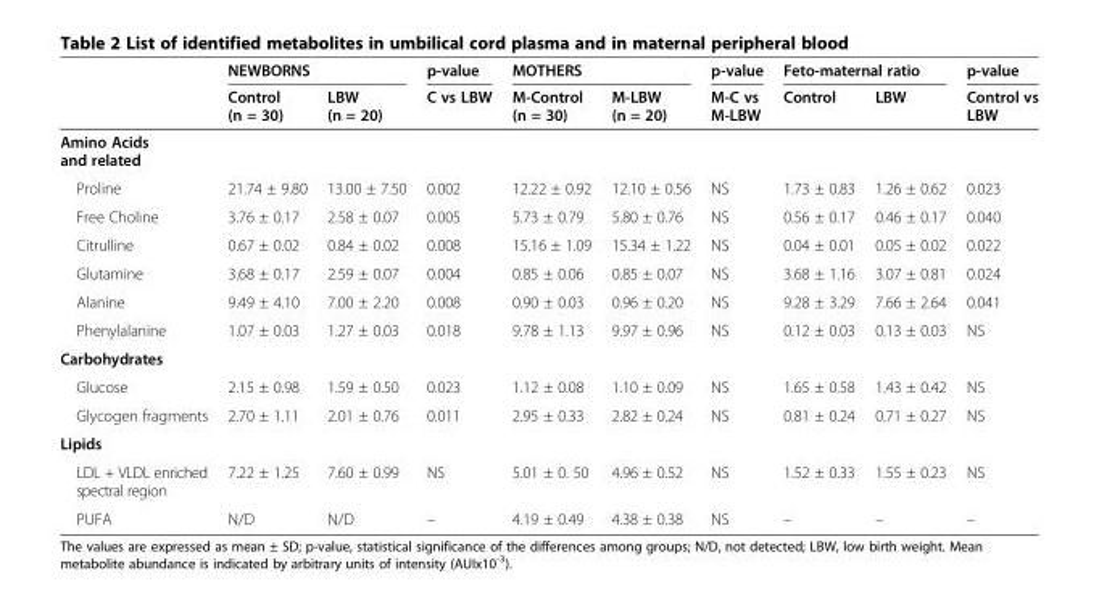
<table><thead><tr><td rowspan="2"></td><td colspan="2">NEWBORNS</td><td rowspan="2">p-value C vs LBW</td><td colspan="2">MOTHERS</td><td rowspan="2">p-value M-C vs M-LBW</td><td colspan="2">Feto-maternal ratio</td><td rowspan="2">p-value Control vs LBW</td></tr><tr><td>Control (n = 30)</td><td>LBW (n = 20)</td><td>M-Control (n = 30)</td><td>M-LBW (n = 20)</td><td>Control</td><td>LBW</td></tr></thead><tbody><tr><td colspan="10">Amino Acids and related</td></tr><tr><td>Proline</td><td>21.74 ± 9.80</td><td>13.00 ± 7.50</td><td>0.002</td><td>12.22 ± 0.92</td><td>12.10 ± 0.56</td><td>NS</td><td>1.73 ± 0.83</td><td>1.26 ± 0.62</td><td>0.023</td></tr><tr><td>Free Choline</td><td>3.76 ± 0.17</td><td>2.58 ± 0.07</td><td>0.005</td><td>5.73 ± 0.79</td><td>5.80 ± 0.76</td><td>NS</td><td>0.56 ± 0.17</td><td>0.46 ± 0.17</td><td>0.040</td></tr><tr><td>Citrulline</td><td>0.67 ± 0.02</td><td>0.84 ± 0.02</td><td>0.008</td><td>15.16 ± 1.09</td><td>15.34 ± 1.22</td><td>NS</td><td>0.04 ± 0.01</td><td>0.05 ± 0.02</td><td>0.022</td></tr><tr><td>Glutamine</td><td>3.68 ± 0.17</td><td>2.59 ± 0.07</td><td>0.004</td><td>0.85 ± 0.06</td><td>0.85 ± 0.07</td><td>NS</td><td>3.68 ± 1.16</td><td>3.07 ± 0.81</td><td>0.024</td></tr><tr><td>Alanine</td><td>9.49 ± 4.10</td><td>7.00 ± 2.20</td><td>0.008</td><td>0.90 ± 0.03</td><td>0.96 ± 0.20</td><td>NS</td><td>9.28 ± 3.29</td><td>7.66 ± 2.64</td><td>0.041</td></tr><tr><td>Phenylalanine</td><td>1.07 ± 0.03</td><td>1.27 ± 0.03</td><td>0.018</td><td>9.78 ± 1.13</td><td>9.97 ± 0.96</td><td>NS</td><td>0.12 ± 0.03</td><td>0.13 ± 0.03</td><td>NS</td></tr><tr><td colspan="10">Carbohydrates</td></tr><tr><td>Glucose</td><td>2.15 ± 0.98</td><td>1.59 ± 0.50</td><td>0.023</td><td>1.12 ± 0.08</td><td>1.10 ± 0.09</td><td>NS</td><td>1.65 ± 0.58</td><td>1.43 ± 0.42</td><td>NS</td></tr><tr><td>Glycogen fragments</td><td>2.70 ± 1.11</td><td>2.01 ± 0.76</td><td>0.011</td><td>2.95 ± 0.33</td><td>2.82 ± 0.24</td><td>NS</td><td>0.81 ± 0.24</td><td>0.71 ± 0.27</td><td>NS</td></tr><tr><td colspan="10">Lipids</td></tr><tr><td>LDL + VLDL enriched spectral region</td><td>7.22 ± 1.25</td><td>7.60 ± 0.99</td><td>NS</td><td>5.01 ± 0. 50</td><td>4.96 ± 0.52</td><td>NS</td><td>1.52 ± 0.33</td><td>1.55 ± 0.23</td><td>NS</td></tr><tr><td>PUFA</td><td>N/D</td><td>N/D</td><td>–</td><td>4.19 ± 0.49</td><td>4.38 ± 0.38</td><td>NS</td><td>–</td><td>–</td><td>–</td></tr></tbody></table>